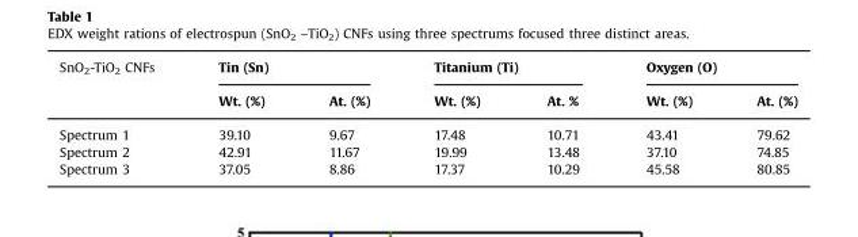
<table><thead><tr><td rowspan="2">SnO<sub>2</sub>-TiO<sub>2</sub> CNFs</td><td colspan="2">Tin (Sn)</td><td colspan="2">Titanium (Ti)</td><td colspan="2">Oxygen (O)</td></tr><tr><td>Wt. (%)</td><td>At. (%)</td><td>Wt. (%)</td><td>At. %</td><td>Wt. (%)</td><td>At. (%)</td></tr></thead><tbody><tr><td>Spectrum 1</td><td>39.10</td><td>9.67</td><td>17.48</td><td>10.71</td><td>43.41</td><td>79.62</td></tr><tr><td>Spectrum 2</td><td>42.91</td><td>11.67</td><td>19.99</td><td>13.48</td><td>37.10</td><td>74.85</td></tr><tr><td>Spectrum 3</td><td>37.05</td><td>8.86</td><td>17.37</td><td>10.29</td><td>45.58</td><td>80.85</td></tr></tbody></table>